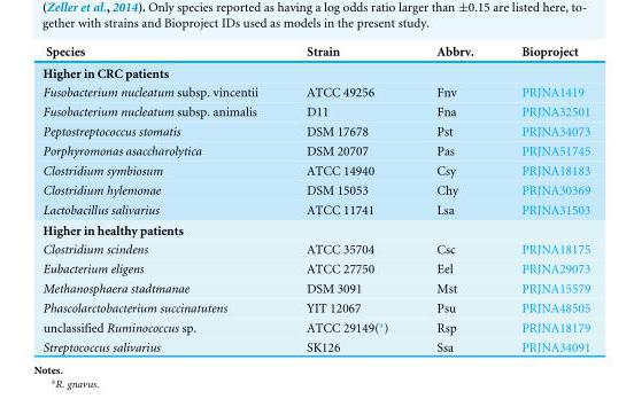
<table><thead><tr><td>Species</td><td>Strain</td><td>Abbrv.</td><td>Bioproject</td></tr></thead><tbody><tr><td colspan="4">Higher in CRC patients</td></tr><tr><td>Fusobacterium nucleatum subsp. vincentii</td><td>ATCC 49256</td><td>Fnv</td><td>PRJNA1419</td></tr><tr><td>Fusobacterium nucleatum subsp. animalis</td><td>D11</td><td>Fna</td><td>PRJNA32501</td></tr><tr><td>Peptostreptococcus stomatis</td><td>DSM 17678</td><td>Pst</td><td>PRJNA34073</td></tr><tr><td>Porphyromonas asaccharolytica</td><td>DSM 20707</td><td>Pas</td><td>PRJNA51745</td></tr><tr><td>Clostridium symbiosum</td><td>ATCC 14940</td><td>Csy</td><td>PRJNA18183</td></tr><tr><td>Clostridium hylemonae</td><td>DSM 15053</td><td>Chy</td><td>PRJNA30369</td></tr><tr><td>Lactobacillus salivarius</td><td>ATCC 11741</td><td>Lsa</td><td>PRJNA31503</td></tr><tr><td colspan="4">Higher in healthy patients</td></tr><tr><td>Clostridium scindens</td><td>ATCC 35704</td><td>Csc</td><td>PRJNA18175</td></tr><tr><td>Eubacterium eligens</td><td>ATCC 27750</td><td>Eel</td><td>PRJNA29073</td></tr><tr><td>Methanosphaera stadtmanae</td><td>DSM 3091</td><td>Mst</td><td>PRJNA15579</td></tr><tr><td>Phascolarctobacterium succinatutens</td><td>YIT 12067</td><td>Psu</td><td>PRJNA48505</td></tr><tr><td>unclassified Ruminococcus sp.</td><td>ATCC 29149(<sup>a</sup>)</td><td>Rsp</td><td>PRJNA18179</td></tr><tr><td>Streptococcus salivarius</td><td>SK126</td><td>Ssa</td><td>PRJNA34091</td></tr></tbody></table>